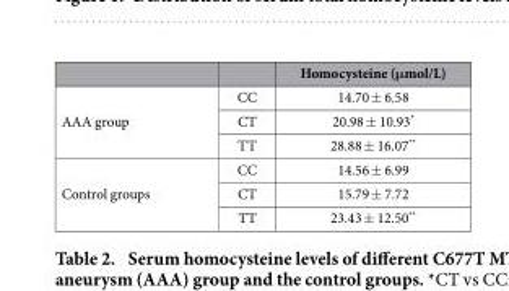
<table><thead><tr><td></td><td></td><td>Homocysteine (μmol/L)</td></tr></thead><tbody><tr><td rowspan="3">AAA group</td><td>CC</td><td>14.70 ± 6.58</td></tr><tr><td>CT</td><td>20.98 ± 10.93*</td></tr><tr><td>TT</td><td>28.88 ± 16.07**</td></tr><tr><td rowspan="3">Control groups</td><td>CC</td><td>14.56 ± 6.99</td></tr><tr><td>CT</td><td>15.79 ± 7.72</td></tr><tr><td>TT</td><td>23.43 ± 12.50**</td></tr></tbody></table>